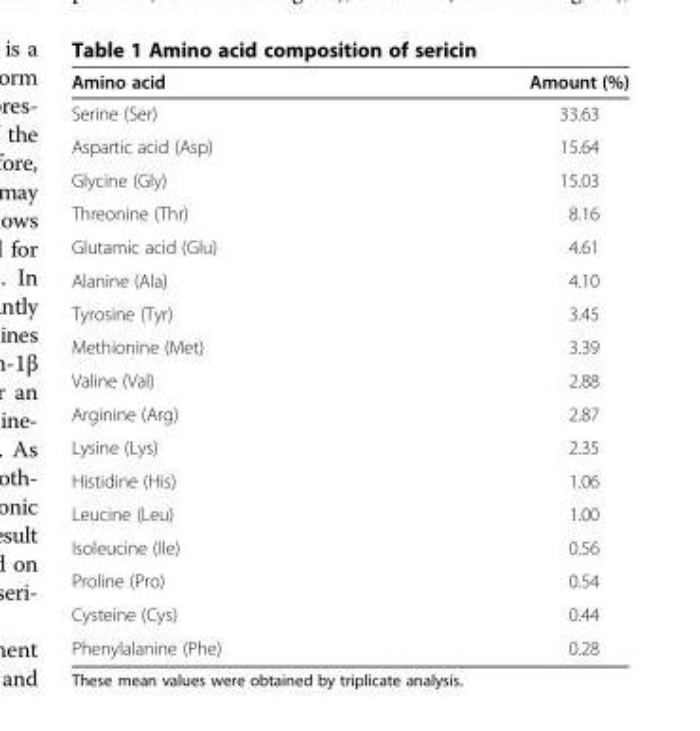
<table><thead><tr><td>Amino acid</td><td>Amount (%)</td></tr></thead><tbody><tr><td>Serine (Ser)</td><td>33.63</td></tr><tr><td>Aspartic acid (Asp)</td><td>15.64</td></tr><tr><td>Glycine (Gly)</td><td>15.03</td></tr><tr><td>Threonine (Thr)</td><td>8.16</td></tr><tr><td>Glutamic acid (Glu)</td><td>4.61</td></tr><tr><td>Alanine (Ala)</td><td>4.10</td></tr><tr><td>Tyrosine (Tyr)</td><td>3.45</td></tr><tr><td>Methionine (Met)</td><td>3.39</td></tr><tr><td>Valine (Val)</td><td>2.88</td></tr><tr><td>Arginine (Arg)</td><td>2.87</td></tr><tr><td>Lysine (Lys)</td><td>2.35</td></tr><tr><td>Histidine (His)</td><td>1.06</td></tr><tr><td>Leucine (Leu)</td><td>1.00</td></tr><tr><td>Isoleucine (Ile)</td><td>0.56</td></tr><tr><td>Proline (Pro)</td><td>0.54</td></tr><tr><td>Cysteine (Cys)</td><td>0.44</td></tr><tr><td>Phenylalanine (Phe)</td><td>0.28</td></tr></tbody></table>